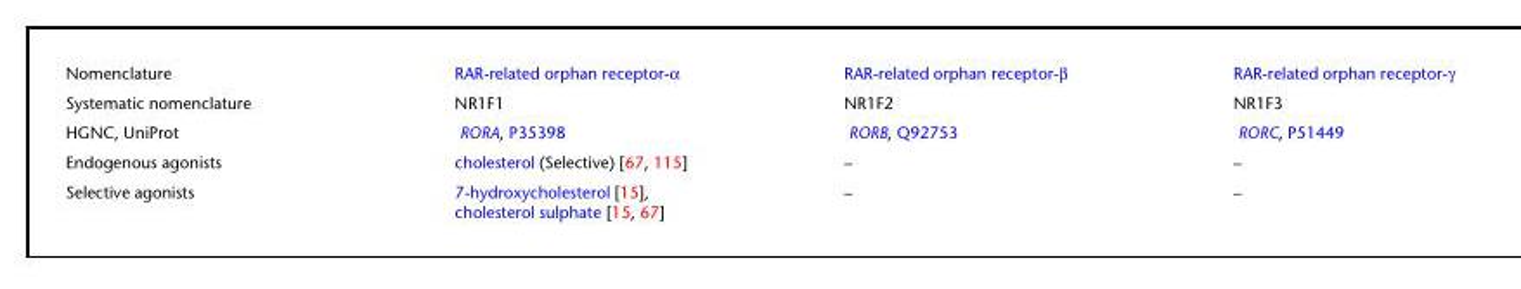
<table><tbody><tr><td>Nomenclature</td><td>RAR-related orphan receptor-α</td><td>RAR-related orphan receptor-β</td><td>RAR-related orphan receptor-γ</td></tr><tr><td>Systematic nomenclature</td><td>NR1F1</td><td>NR1F2</td><td>NR1F3</td></tr><tr><td>HGNC, UniProt</td><td>RORA, P35398</td><td>RORB, Q92753</td><td>RORC, P51449</td></tr><tr><td>Endogenous agonists</td><td>cholesterol (Selective) [67, 115]</td><td>–</td><td>–</td></tr><tr><td>Selective agonists</td><td>7-hydroxycholesterol [15], cholesterol sulphate [15, 67]</td><td>–</td><td>–</td></tr></tbody></table>